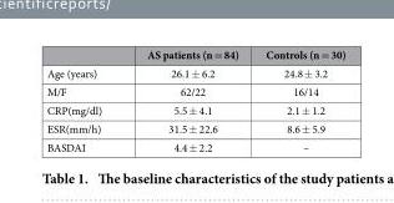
<table><thead><tr><td></td><td>AS patients (n = 84)</td><td>Controls (n = 30)</td></tr></thead><tbody><tr><td>Age (years)</td><td>26.1 ± 6.2</td><td>24.8 ± 3.2</td></tr><tr><td>M/F</td><td>62/22</td><td>16/14</td></tr><tr><td>CRP(mg/dl)</td><td>5.5 ± 4.1</td><td>2.1 ± 1.2</td></tr><tr><td>ESR(mm/h)</td><td>31.5 ± 22.6</td><td>8.6 ± 5.9</td></tr><tr><td>BASDAI</td><td>4.4 ± 2.2</td><td>–</td></tr></tbody></table>